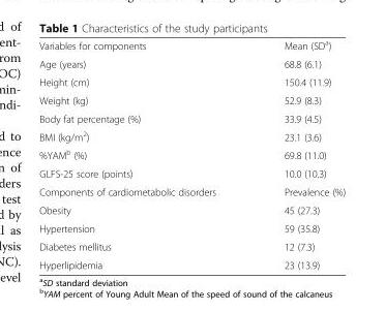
<table><tbody><tr><td>Variables for components</td><td>Mean (SD<sup>a</sup>)</td></tr><tr><td>Age (years)</td><td>68.8 (6.1)</td></tr><tr><td>Height (cm)</td><td>150.4 (11.9)</td></tr><tr><td>Weight (kg)</td><td>52.9 (8.3)</td></tr><tr><td>Body fat percentage (%)</td><td>33.9 (4.5)</td></tr><tr><td>BMI (kg/m<sup>2</sup>)</td><td>23.1 (3.6)</td></tr><tr><td>%YAM<sup>b</sup> (%)</td><td>69.8 (11.0)</td></tr><tr><td>GLFS-25 score (points)</td><td>10.0 (10.3)</td></tr><tr><td>Components of cardiometabolic disorders</td><td>Prevalence (%)</td></tr><tr><td>Obesity</td><td>45 (27.3)</td></tr><tr><td>Hypertension</td><td>59 (35.8)</td></tr><tr><td>Diabetes mellitus</td><td>12 (7.3)</td></tr><tr><td>Hyperlipidemia</td><td>23 (13.9)</td></tr></tbody></table>